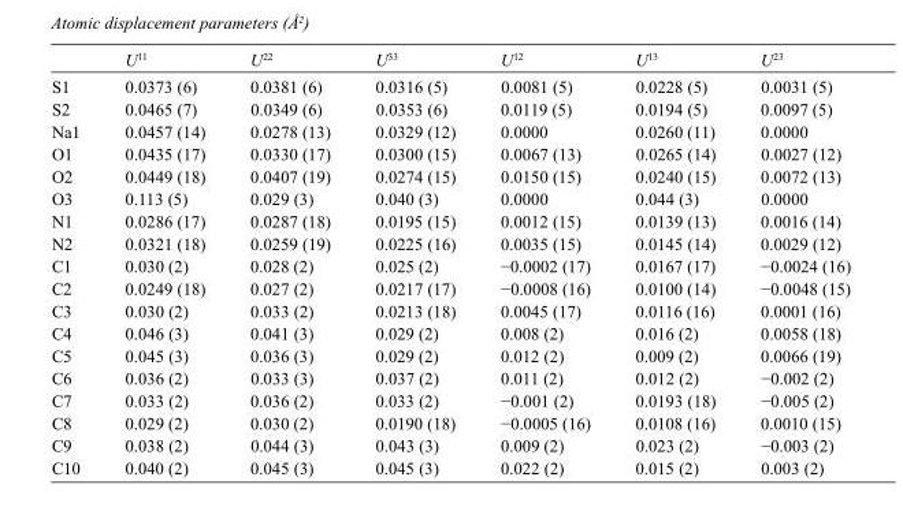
<table><thead><tr><td></td><td>U<sup>11</sup></td><td>U<sup>22</sup></td><td>U<sup>33</sup></td><td>U<sup>12</sup></td><td>U<sup>13</sup></td><td>U<sup>23</sup></td></tr></thead><tbody><tr><td>S1</td><td>0.0373 (6)</td><td>0.0381 (6)</td><td>0.0316 (5)</td><td>0.0081 (5)</td><td>0.0228 (5)</td><td>0.0031 (5)</td></tr><tr><td>S2</td><td>0.0465 (7)</td><td>0.0349 (6)</td><td>0.0353 (6)</td><td>0.0119 (5)</td><td>0.0194 (5)</td><td>0.0097 (5)</td></tr><tr><td>Na1</td><td>0.0457 (14)</td><td>0.0278 (13)</td><td>0.0329 (12)</td><td>0.0000</td><td>0.0260 (11)</td><td>0.0000</td></tr><tr><td>O1</td><td>0.0435 (17)</td><td>0.0330 (17)</td><td>0.0300 (15)</td><td>0.0067 (13)</td><td>0.0265 (14)</td><td>0.0027 (12)</td></tr><tr><td>O2</td><td>0.0449 (18)</td><td>0.0407 (19)</td><td>0.0274 (15)</td><td>0.0150 (15)</td><td>0.0240 (15)</td><td>0.0072 (13)</td></tr><tr><td>O3</td><td>0.113 (5)</td><td>0.029 (3)</td><td>0.040 (3)</td><td>0.0000</td><td>0.044 (3)</td><td>0.0000</td></tr><tr><td>N1</td><td>0.0286 (17)</td><td>0.0287 (18)</td><td>0.0195 (15)</td><td>0.0012 (15)</td><td>0.0139 (13)</td><td>0.0016 (14)</td></tr><tr><td>N2</td><td>0.0321 (18)</td><td>0.0259 (19)</td><td>0.0225 (16)</td><td>0.0035 (15)</td><td>0.0145 (14)</td><td>0.0029 (12)</td></tr><tr><td>C1</td><td>0.030 (2)</td><td>0.028 (2)</td><td>0.025 (2)</td><td>−0.0002 (17)</td><td>0.0167 (17)</td><td>−0.0024 (16)</td></tr><tr><td>C2</td><td>0.0249 (18)</td><td>0.027 (2)</td><td>0.0217 (17)</td><td>−0.0008 (16)</td><td>0.0100 (14)</td><td>−0.0048 (15)</td></tr><tr><td>C3</td><td>0.030 (2)</td><td>0.033 (2)</td><td>0.0213 (18)</td><td>0.0045 (17)</td><td>0.0116 (16)</td><td>0.0001 (16)</td></tr><tr><td>C4</td><td>0.046 (3)</td><td>0.041 (3)</td><td>0.029 (2)</td><td>0.008 (2)</td><td>0.016 (2)</td><td>0.0058 (18)</td></tr><tr><td>C5</td><td>0.045 (3)</td><td>0.036 (3)</td><td>0.029 (2)</td><td>0.012 (2)</td><td>0.009 (2)</td><td>0.0066 (19)</td></tr><tr><td>C6</td><td>0.036 (2)</td><td>0.033 (3)</td><td>0.037 (2)</td><td>0.011 (2)</td><td>0.012 (2)</td><td>−0.002 (2)</td></tr><tr><td>C7</td><td>0.033 (2)</td><td>0.036 (2)</td><td>0.033 (2)</td><td>−0.001 (2)</td><td>0.0193 (18)</td><td>−0.005 (2)</td></tr><tr><td>C8</td><td>0.029 (2)</td><td>0.030 (2)</td><td>0.0190 (18)</td><td>−0.0005 (16)</td><td>0.0108 (16)</td><td>0.0010 (15)</td></tr><tr><td>C9</td><td>0.038 (2)</td><td>0.044 (3)</td><td>0.043 (3)</td><td>0.009 (2)</td><td>0.023 (2)</td><td>−0.003 (2)</td></tr><tr><td>C10</td><td>0.040 (2)</td><td>0.045 (3)</td><td>0.045 (3)</td><td>0.022 (2)</td><td>0.015 (2)</td><td>0.003 (2)</td></tr></tbody></table>